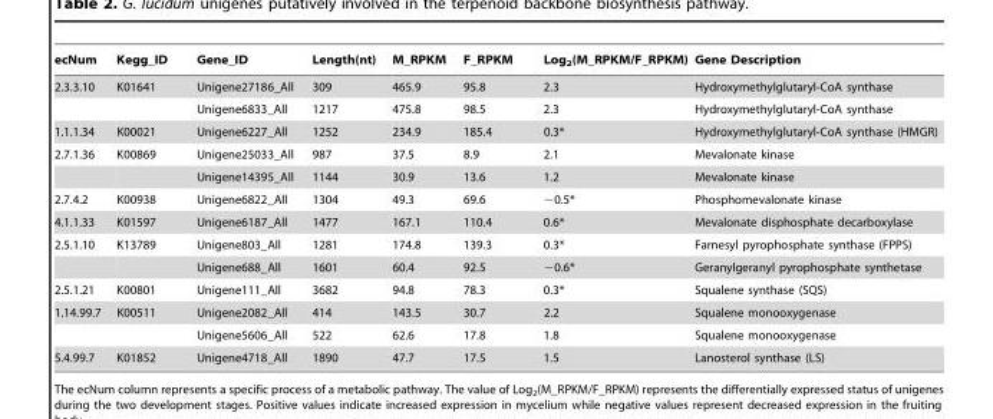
<table><thead><tr><td>ecNum</td><td>Kegg_ID</td><td>Gene_ID</td><td>Length(nt)</td><td>M_RPKM</td><td>F_RPKM</td><td>Log<sub>2</sub>(M_RPKM/F_RPKM)</td><td>Gene Description</td></tr></thead><tbody><tr><td rowspan="2">2.3.3.10</td><td>K01641</td><td>Unigene27186_All</td><td>309</td><td>465.9</td><td>95.8</td><td>2.3</td><td>Hydroxymethylglutaryl-CoA synthase</td></tr><tr><td></td><td>Unigene6833_All</td><td>1217</td><td>475.8</td><td>98.5</td><td>2.3</td><td>Hydroxymethylglutaryl-CoA synthase</td></tr><tr><td>1.1.1.34</td><td>K00021</td><td>Unigene6227_All</td><td>1252</td><td>234.9</td><td>185.4</td><td>0.3*</td><td>Hydroxymethylglutaryl-CoA synthase (HMGR)</td></tr><tr><td rowspan="2">2.7.1.36</td><td>K00869</td><td>Unigene25033_All</td><td>987</td><td>37.5</td><td>8.9</td><td>2.1</td><td>Mevalonate kinase</td></tr><tr><td></td><td>Unigene14395_All</td><td>1144</td><td>30.9</td><td>13.6</td><td>1.2</td><td>Mevalonate kinase</td></tr><tr><td>2.7.4.2</td><td>K00938</td><td>Unigene6822_All</td><td>1304</td><td>49.3</td><td>69.6</td><td>−0.5*</td><td>Phosphomevalonate kinase</td></tr><tr><td>4.1.1.33</td><td>K01597</td><td>Unigene6187_All</td><td>1477</td><td>167.1</td><td>110.4</td><td>0.6*</td><td>Mevalonate disphosphate decarboxylase</td></tr><tr><td rowspan="2">2.5.1.10</td><td>K13789</td><td>Unigene803_All</td><td>1281</td><td>174.8</td><td>139.3</td><td>0.3*</td><td>Farnesyl pyrophosphate synthase (FPPS)</td></tr><tr><td></td><td>Unigene688_All</td><td>1601</td><td>60.4</td><td>92.5</td><td>−0.6*</td><td>Geranylgeranyl pyrophosphate synthetase</td></tr><tr><td>2.5.1.21</td><td>K00801</td><td>Unigene111_All</td><td>3682</td><td>94.8</td><td>78.3</td><td>0.3*</td><td>Squalene synthase (SQS)</td></tr><tr><td rowspan="2">1.14.99.7</td><td>K00511</td><td>Unigene2082_All</td><td>414</td><td>143.5</td><td>30.7</td><td>2.2</td><td>Squalene monooxygenase</td></tr><tr><td></td><td>Unigene5606_All</td><td>522</td><td>62.6</td><td>17.8</td><td>1.8</td><td>Squalene monooxygenase</td></tr><tr><td>5.4.99.7</td><td>K01852</td><td>Unigene4718_All</td><td>1890</td><td>47.7</td><td>17.5</td><td>1.5</td><td>Lanosterol synthase (LS)</td></tr></tbody></table>